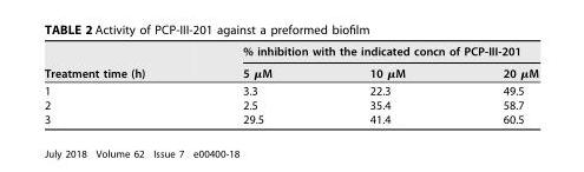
<table><thead><tr><td rowspan="2">Treatment time (h)</td><td colspan="3">% inhibition with the indicated concn of PCP-III-201</td></tr><tr><td>5 μM</td><td>10 μM</td><td>20 μM</td></tr></thead><tbody><tr><td>1</td><td>3.3</td><td>22.3</td><td>49.5</td></tr><tr><td>2</td><td>2.5</td><td>35.4</td><td>58.7</td></tr><tr><td>3</td><td>29.5</td><td>41.4</td><td>60.5</td></tr></tbody></table>